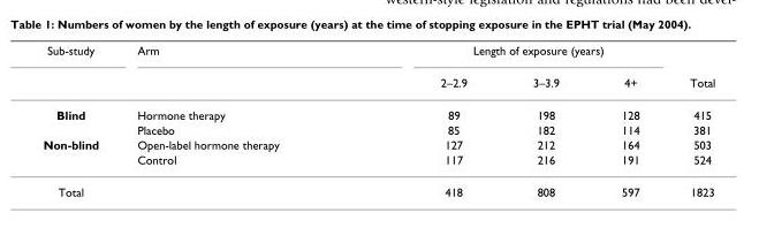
<table><thead><tr><td rowspan="2">Sub-study</td><td rowspan="2">Arm</td><td colspan="3">Length of exposure (years)</td><td rowspan="2">Total</td></tr><tr><td>2–2.9</td><td>3–3.9</td><td>4+</td></tr></thead><tbody><tr><td rowspan="2">Blind</td><td>Hormone therapy</td><td>89</td><td>198</td><td>128</td><td>415</td></tr><tr><td>Placebo</td><td>85</td><td>182</td><td>114</td><td>381</td></tr><tr><td rowspan="2">Non-blind</td><td>Open-label hormone therapy</td><td>127</td><td>212</td><td>164</td><td>503</td></tr><tr><td>Control</td><td>117</td><td>216</td><td>191</td><td>524</td></tr><tr><td>Total</td><td></td><td>418</td><td>808</td><td>597</td><td>1823</td></tr></tbody></table>